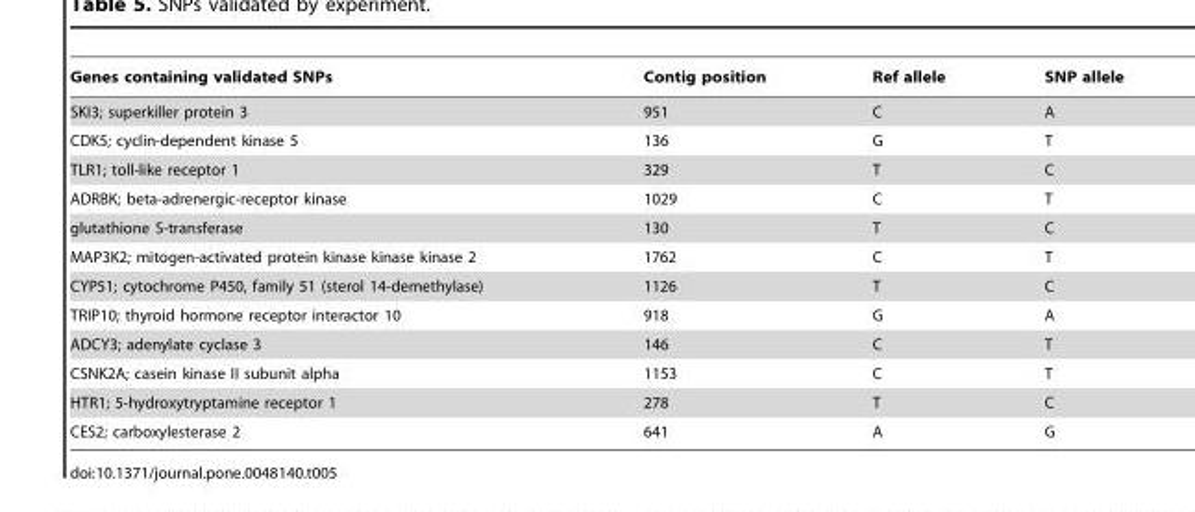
<table><thead><tr><td>Genes containing validated SNPs</td><td>Contig position</td><td>Ref allele</td><td>SNP allele</td></tr></thead><tbody><tr><td>SKI3; superkiller protein 3</td><td>951</td><td>C</td><td>A</td></tr><tr><td>CDK5; cyclin-dependent kinase 5</td><td>136</td><td>G</td><td>T</td></tr><tr><td>TLR1; toll-like receptor 1</td><td>329</td><td>T</td><td>C</td></tr><tr><td>ADRBK; beta-adrenergic-receptor kinase</td><td>1029</td><td>C</td><td>T</td></tr><tr><td>glutathione S-transferase</td><td>130</td><td>T</td><td>C</td></tr><tr><td>MAP3K2; mitogen-activated protein kinase kinase kinase 2</td><td>1762</td><td>C</td><td>T</td></tr><tr><td>CYP51; cytochrome P450, family 51 (sterol 14-demethylase)</td><td>1126</td><td>T</td><td>C</td></tr><tr><td>TRIP10; thyroid hormone receptor interactor 10</td><td>918</td><td>G</td><td>A</td></tr><tr><td>ADCY3; adenylate cyclase 3</td><td>146</td><td>C</td><td>T</td></tr><tr><td>CSNK2A; casein kinase II subunit alpha</td><td>1153</td><td>C</td><td>T</td></tr><tr><td>HTR1; 5-hydroxytryptamine receptor 1</td><td>278</td><td>T</td><td>C</td></tr><tr><td>CES2; carboxylesterase 2</td><td>641</td><td>A</td><td>G</td></tr></tbody></table>